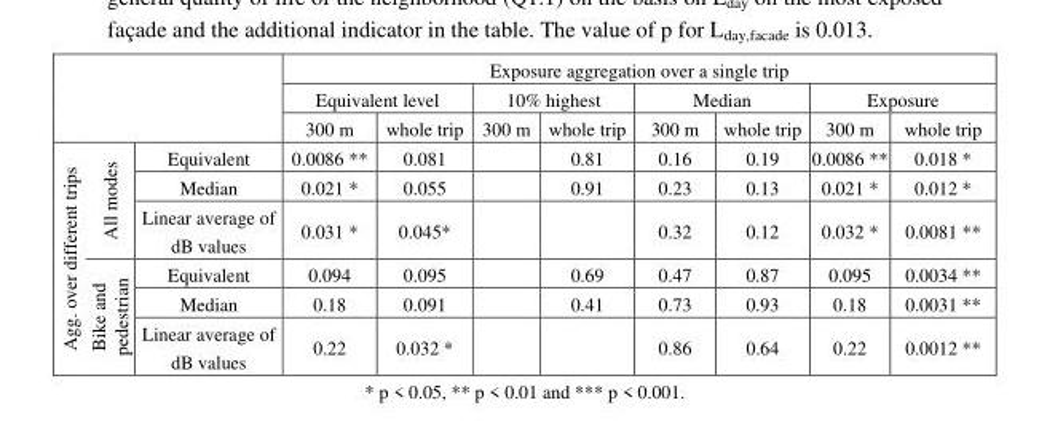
<table><thead><tr><td rowspan="3"></td><td rowspan="3"></td><td rowspan="3"></td><td colspan="8">Exposure aggregation over a single trip</td></tr><tr><td colspan="2">Equivalent level</td><td colspan="2">10% highest</td><td colspan="2">Median</td><td colspan="2">Exposure</td></tr><tr><td>300 m</td><td>whole trip</td><td>300 m</td><td>whole trip</td><td>300 m</td><td>whole trip</td><td>300 m</td><td>whole trip</td></tr></thead><tbody><tr><td rowspan="6">Agg. over different trips</td><td rowspan="3">All modes</td><td>Equivalent</td><td>0.0086 **</td><td>0.081</td><td></td><td>0.81</td><td>0.16</td><td>0.19</td><td>0.0086 **</td><td>0.018 *</td></tr><tr><td>Median</td><td>0.021 *</td><td>0.055</td><td></td><td>0.91</td><td>0.23</td><td>0.13</td><td>0.021 *</td><td>0.012 *</td></tr><tr><td>Linear average of dB values</td><td>0.031 *</td><td>0.045*</td><td></td><td></td><td>0.32</td><td>0.12</td><td>0.032 *</td><td>0.0081 **</td></tr><tr><td rowspan="3">Bike and pedestrian</td><td>Equivalent</td><td>0.094</td><td>0.095</td><td></td><td>0.69</td><td>0.47</td><td>0.87</td><td>0.095</td><td>0.0034 **</td></tr><tr><td>Median</td><td>0.18</td><td>0.091</td><td></td><td>0.41</td><td>0.73</td><td>0.93</td><td>0.18</td><td>0.0031 **</td></tr><tr><td>Linear average of dB values</td><td>0.22</td><td>0.032 *</td><td></td><td></td><td>0.86</td><td>0.64</td><td>0.22</td><td>0.0012 **</td></tr></tbody></table>